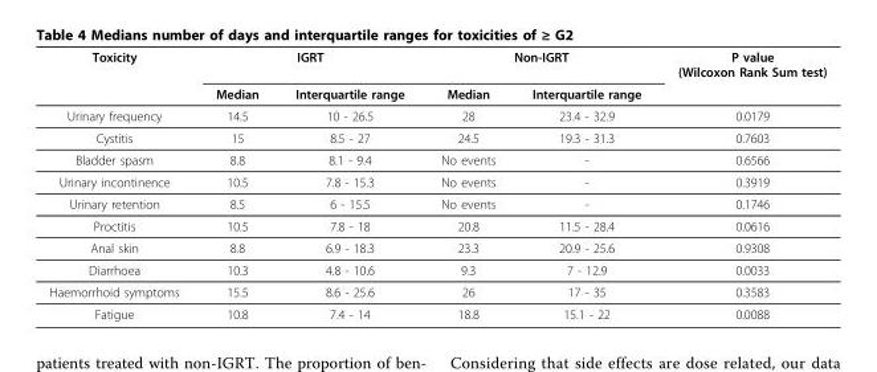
<table><thead><tr><td rowspan="2">Toxicity</td><td colspan="2">IGRT</td><td colspan="2">Non-IGRT</td><td rowspan="2">P value (Wilcoxon Rank Sum test)</td></tr><tr><td>Median</td><td>Interquartile range</td><td>Median</td><td>Interquartile range</td></tr></thead><tbody><tr><td>Urinary frequency</td><td>14.5</td><td>10 - 26.5</td><td>28</td><td>23.4 - 32.9</td><td>0.0179</td></tr><tr><td>Cystitis</td><td>15</td><td>8.5 - 27</td><td>24.5</td><td>19.3 - 31.3</td><td>0.7603</td></tr><tr><td>Bladder spasm</td><td>8.8</td><td>8.1 - 9.4</td><td>No events</td><td>-</td><td>0.6566</td></tr><tr><td>Urinary incontinence</td><td>10.5</td><td>7.8 - 15.3</td><td>No events</td><td>-</td><td>0.3919</td></tr><tr><td>Urinary retention</td><td>8.5</td><td>6 - 15.5</td><td>No events</td><td>-</td><td>0.1746</td></tr><tr><td>Proctitis</td><td>10.5</td><td>7.8 - 18</td><td>20.8</td><td>11.5 - 28.4</td><td>0.0616</td></tr><tr><td>Anal skin</td><td>8.8</td><td>6.9 - 18.3</td><td>23.3</td><td>20.9 - 25.6</td><td>0.9308</td></tr><tr><td>Diarrhoea</td><td>10.3</td><td>4.8 - 10.6</td><td>9.3</td><td>7 - 12.9</td><td>0.0033</td></tr><tr><td>Haemorrhoid symptoms</td><td>15.5</td><td>8.6 - 25.6</td><td>26</td><td>17 - 35</td><td>0.3583</td></tr><tr><td>Fatigue</td><td>10.8</td><td>7.4 - 14</td><td>18.8</td><td>15.1 - 22</td><td>0.0088</td></tr></tbody></table>